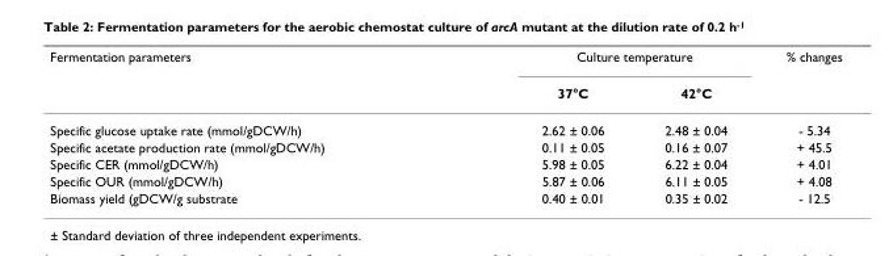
<table><thead><tr><td rowspan="2">Fermentation parameters</td><td colspan="2">Culture temperature</td><td rowspan="2">% changes</td></tr><tr><td>37°C</td><td>42°C</td></tr></thead><tbody><tr><td>Specific glucose uptake rate (mmol/gDCW/h)</td><td>2.62 ± 0.06</td><td>2.48 ± 0.04</td><td>- 5.34</td></tr><tr><td>Specific acetate production rate (mmol/gDCW/h)</td><td>0.11 ± 0.05</td><td>0.16 ± 0.07</td><td>+ 45.5</td></tr><tr><td>Specific CER (mmol/gDCW/h)</td><td>5.98 ± 0.05</td><td>6.22 ± 0.04</td><td>+ 4.01</td></tr><tr><td>Specific OUR (mmol/gDCW/h)</td><td>5.87 ± 0.06</td><td>6.11 ± 0.05</td><td>+ 4.08</td></tr><tr><td>Biomass yield (gDCW/g substrate</td><td>0.40 ± 0.01</td><td>0.35 ± 0.02</td><td>- 12.5</td></tr></tbody></table>